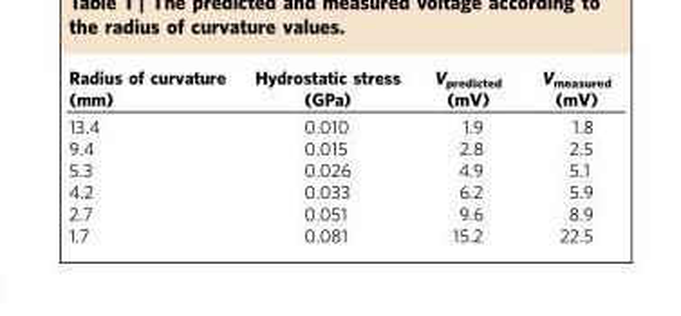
<table><thead><tr><td>Radius of curvature (mm)</td><td>Hydrostatic stress (GPa)</td><td>V<sub>predicted</sub> (mV)</td><td>V<sub>measured</sub> (mV)</td></tr></thead><tbody><tr><td>13.4</td><td>0.010</td><td>1.9</td><td>1.8</td></tr><tr><td>9.4</td><td>0.015</td><td>2.8</td><td>2.5</td></tr><tr><td>5.3</td><td>0.026</td><td>4.9</td><td>5.1</td></tr><tr><td>4.2</td><td>0.033</td><td>6.2</td><td>5.9</td></tr><tr><td>2.7</td><td>0.051</td><td>9.6</td><td>8.9</td></tr><tr><td>1.7</td><td>0.081</td><td>15.2</td><td>22.5</td></tr></tbody></table>